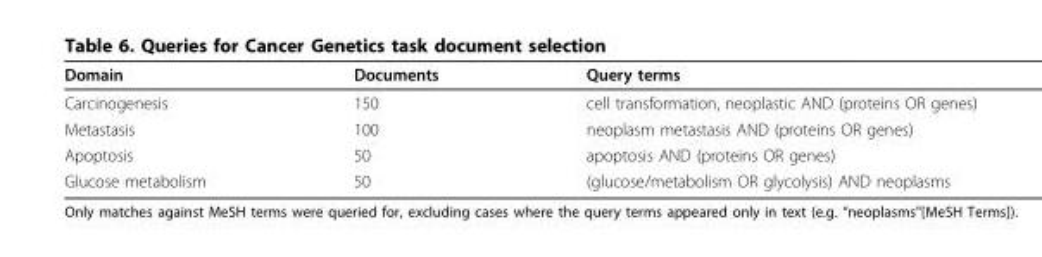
<table><thead><tr><td>Domain</td><td>Documents</td><td>Query terms</td></tr></thead><tbody><tr><td>Carcinogenesis</td><td>150</td><td>cell transformation, neoplastic AND (proteins OR genes)</td></tr><tr><td>Metastasis</td><td>100</td><td>neoplasm metastasis AND (proteins OR genes)</td></tr><tr><td>Apoptosis</td><td>50</td><td>apoptosis AND (proteins OR genes)</td></tr><tr><td>Glucose metabolism</td><td>50</td><td>(glucose/metabolism OR glycolysis) AND neoplasms</td></tr></tbody></table>